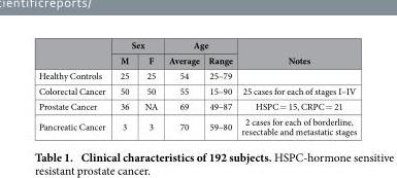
<table><thead><tr><td rowspan="2"></td><td colspan="2">Sex</td><td colspan="2">Age</td><td rowspan="2">Notes</td></tr><tr><td>M</td><td>F</td><td>Average</td><td>Range</td></tr></thead><tbody><tr><td>Healthy Controls</td><td>25</td><td>25</td><td>54</td><td>25–79</td><td></td></tr><tr><td>Colorectal Cancer</td><td>50</td><td>50</td><td>55</td><td>15–90</td><td>25 cases for each of stages I–IV</td></tr><tr><td>Prostate Cancer</td><td>36</td><td>NA</td><td>69</td><td>49–87</td><td>HSPC = 15, CRPC = 21</td></tr><tr><td>Pancreatic Cancer</td><td>3</td><td>3</td><td>70</td><td>59–80</td><td>2 cases for each of borderline, resectable and metastatic stages</td></tr></tbody></table>